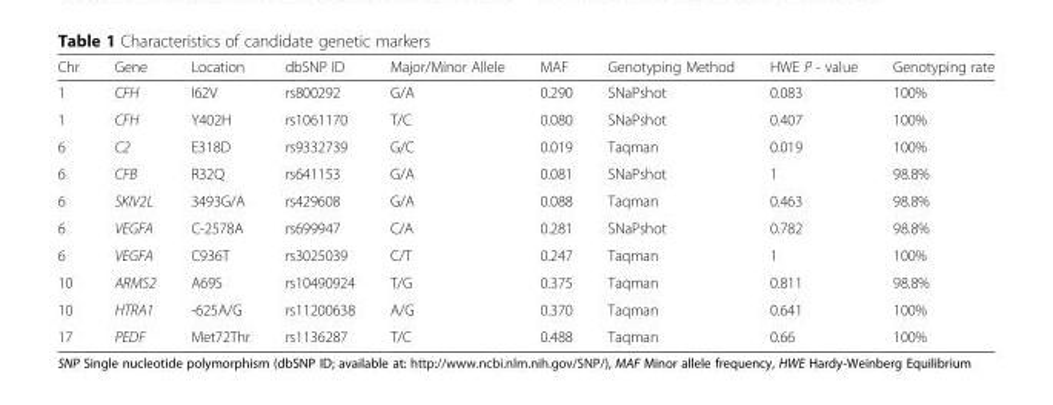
<table><thead><tr><td>Chr</td><td>Gene</td><td>Location</td><td>dbSNP ID</td><td>Major/Minor Allele</td><td>MAF</td><td>Genotyping Method</td><td>HWE P - value</td><td>Genotyping rate</td></tr></thead><tbody><tr><td>1</td><td>CFH</td><td>I62V</td><td>rs800292</td><td>G/A</td><td>0.290</td><td>SNaPshot</td><td>0.083</td><td>100%</td></tr><tr><td>1</td><td>CFH</td><td>Y402H</td><td>rs1061170</td><td>T/C</td><td>0.080</td><td>SNaPshot</td><td>0.407</td><td>100%</td></tr><tr><td>6</td><td>C2</td><td>E318D</td><td>rs9332739</td><td>G/C</td><td>0.019</td><td>Taqman</td><td>0.019</td><td>100%</td></tr><tr><td>6</td><td>CFB</td><td>R32Q</td><td>rs641153</td><td>G/A</td><td>0.081</td><td>SNaPshot</td><td>1</td><td>98.8%</td></tr><tr><td>6</td><td>SKIV2L</td><td>3493G/A</td><td>rs429608</td><td>G/A</td><td>0.088</td><td>Taqman</td><td>0.463</td><td>98.8%</td></tr><tr><td>6</td><td>VEGFA</td><td>C-2578A</td><td>rs699947</td><td>C/A</td><td>0.281</td><td>SNaPshot</td><td>0.782</td><td>98.8%</td></tr><tr><td>6</td><td>VEGFA</td><td>C936T</td><td>rs3025039</td><td>C/T</td><td>0.247</td><td>Taqman</td><td>1</td><td>100%</td></tr><tr><td>10</td><td>ARMS2</td><td>A69S</td><td>rs10490924</td><td>T/G</td><td>0.375</td><td>Taqman</td><td>0.811</td><td>98.8%</td></tr><tr><td>10</td><td>HTRA1</td><td>-625A/G</td><td>rs11200638</td><td>A/G</td><td>0.370</td><td>Taqman</td><td>0.641</td><td>100%</td></tr><tr><td>17</td><td>PEDF</td><td>Met72Thr</td><td>rs1136287</td><td>T/C</td><td>0.488</td><td>Taqman</td><td>0.66</td><td>100%</td></tr></tbody></table>